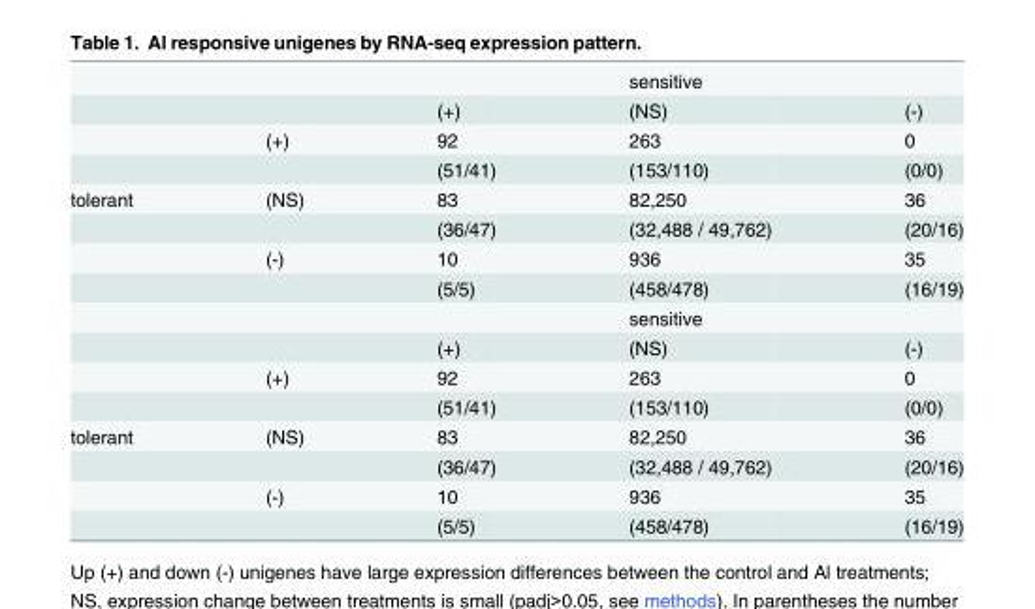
<table><thead><tr><td></td><td></td><td></td><td>sensitive</td><td></td></tr></thead><tbody><tr><td></td><td></td><td>(+)</td><td>(NS)</td><td>(-)</td></tr><tr><td></td><td>(+)</td><td>92</td><td>263</td><td>0</td></tr><tr><td></td><td></td><td>(51/41)</td><td>(153/110)</td><td>(0/0)</td></tr><tr><td rowspan="8">tolerant</td><td>(NS)</td><td>83</td><td>82,250</td><td>36</td></tr><tr><td></td><td>(36/47)</td><td>(32,488 / 49,762)</td><td>(20/16)</td></tr><tr><td>(-)</td><td>10</td><td>936</td><td>35</td></tr><tr><td></td><td>(5/5)</td><td>(458/478)</td><td>(16/19)</td></tr><tr><td></td><td></td><td>sensitive</td><td></td></tr><tr><td></td><td>(+)</td><td>(NS)</td><td>(-)</td></tr><tr><td>(+)</td><td>92</td><td>263</td><td>0</td></tr><tr><td></td><td>(51/41)</td><td>(153/110)</td><td>(0/0)</td></tr><tr><td rowspan="4">tolerant</td><td>(NS)</td><td>83</td><td>82,250</td><td>36</td></tr><tr><td></td><td>(36/47)</td><td>(32,488 / 49,762)</td><td>(20/16)</td></tr><tr><td>(-)</td><td>10</td><td>936</td><td>35</td></tr><tr><td></td><td>(5/5)</td><td>(458/478)</td><td>(16/19)</td></tr></tbody></table>